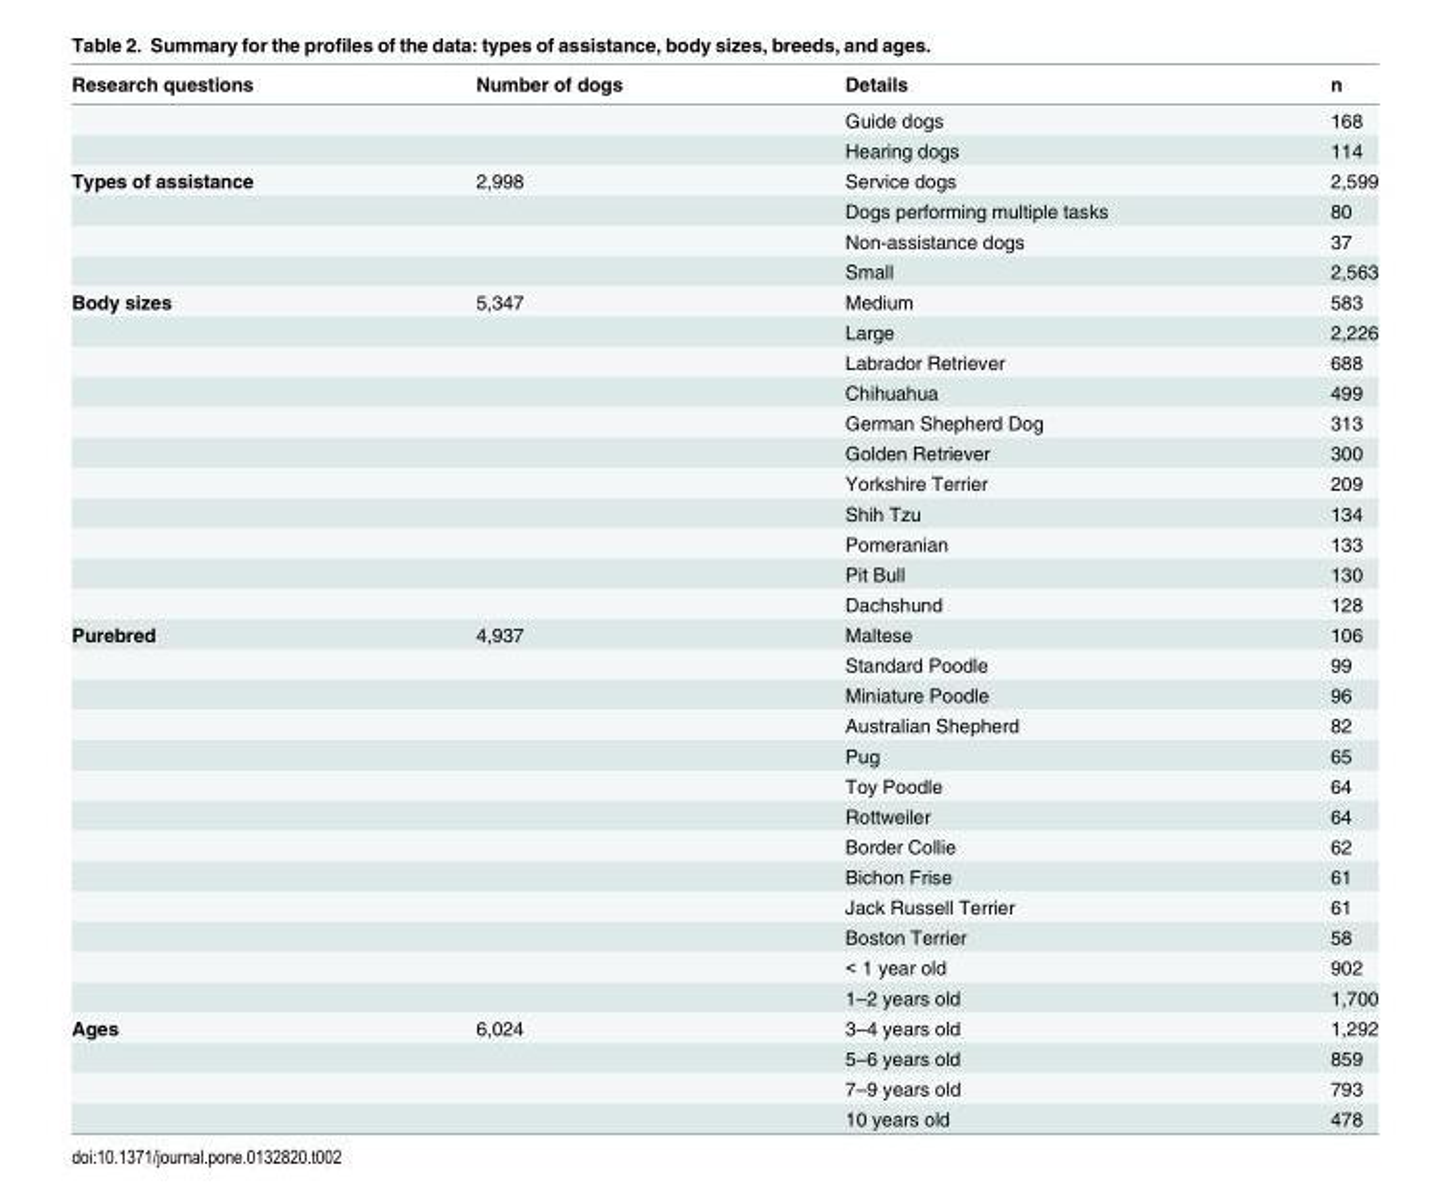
<table><thead><tr><td>Research questions</td><td>Number of dogs</td><td>Details</td><td>n</td></tr></thead><tbody><tr><td></td><td></td><td>Guide dogs</td><td>168</td></tr><tr><td></td><td></td><td>Hearing dogs</td><td>114</td></tr><tr><td rowspan="4">Types of assistance</td><td>2,998</td><td>Service dogs</td><td>2,599</td></tr><tr><td></td><td>Dogs performing multiple tasks</td><td>80</td></tr><tr><td></td><td>Non-assistance dogs</td><td>37</td></tr><tr><td></td><td>Small</td><td>2,563</td></tr><tr><td rowspan="11">Body sizes</td><td>5,347</td><td>Medium</td><td>583</td></tr><tr><td></td><td>Large</td><td>2,226</td></tr><tr><td></td><td>Labrador Retriever</td><td>688</td></tr><tr><td></td><td>Chihuahua</td><td>499</td></tr><tr><td></td><td>German Shepherd Dog</td><td>313</td></tr><tr><td></td><td>Golden Retriever</td><td>300</td></tr><tr><td></td><td>Yorkshire Terrier</td><td>209</td></tr><tr><td></td><td>Shih Tzu</td><td>134</td></tr><tr><td></td><td>Pomeranian</td><td>133</td></tr><tr><td></td><td>Pit Bull</td><td>130</td></tr><tr><td></td><td>Dachshund</td><td>128</td></tr><tr><td rowspan="13">Purebred</td><td>4,937</td><td>Maltese</td><td>106</td></tr><tr><td></td><td>Standard Poodle</td><td>99</td></tr><tr><td></td><td>Miniature Poodle</td><td>96</td></tr><tr><td></td><td>Australian Shepherd</td><td>82</td></tr><tr><td></td><td>Pug</td><td>65</td></tr><tr><td></td><td>Toy Poodle</td><td>64</td></tr><tr><td></td><td>Rottweiler</td><td>64</td></tr><tr><td></td><td>Border Collie</td><td>62</td></tr><tr><td></td><td>Bichon Frise</td><td>61</td></tr><tr><td></td><td>Jack Russell Terrier</td><td>61</td></tr><tr><td></td><td>Boston Terrier</td><td>58</td></tr><tr><td></td><td>&lt; 1 year old</td><td>902</td></tr><tr><td></td><td>1–2 years old</td><td>1,700</td></tr><tr><td rowspan="4">Ages</td><td>6,024</td><td>3–4 years old</td><td>1,292</td></tr><tr><td></td><td>5–6 years old</td><td>859</td></tr><tr><td></td><td>7–9 years old</td><td>793</td></tr><tr><td></td><td>10 years old</td><td>478</td></tr></tbody></table>